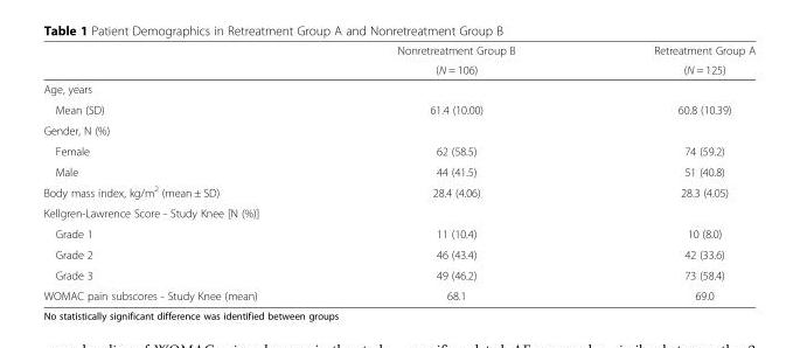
<table><thead><tr><td rowspan="2"></td><td rowspan="2">Nonretreatment Group B (N = 106)</td><td rowspan="2">Retreatment Group A (N = 125)</td></tr><tr></tr></thead><tbody><tr><td colspan="3">Age, years</td></tr><tr><td>Mean (SD)</td><td>61.4 (10.00)</td><td>60.8 (10.39)</td></tr><tr><td colspan="3">Gender, N (%)</td></tr><tr><td>Female</td><td>62 (58.5)</td><td>74 (59.2)</td></tr><tr><td>Male</td><td>44 (41.5)</td><td>51 (40.8)</td></tr><tr><td>Body mass index, kg/m<sup>2</sup> (mean ± SD)</td><td>28.4 (4.06)</td><td>28.3 (4.05)</td></tr><tr><td colspan="3">Kellgren-Lawrence Score - Study Knee [N (%)]</td></tr><tr><td>Grade 1</td><td>11 (10.4)</td><td>10 (8.0)</td></tr><tr><td>Grade 2</td><td>46 (43.4)</td><td>42 (33.6)</td></tr><tr><td>Grade 3</td><td>49 (46.2)</td><td>73 (58.4)</td></tr><tr><td>WOMAC pain subscores - Study Knee (mean)</td><td>68.1</td><td>69.0</td></tr></tbody></table>